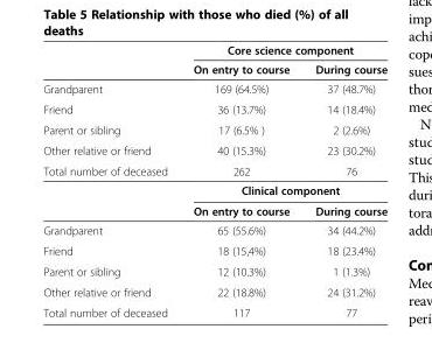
<table><thead><tr><td rowspan="2"></td><td colspan="2">Core science component</td></tr><tr><td>On entry to course</td><td>During course</td></tr></thead><tbody><tr><td>Grandparent</td><td>169 (64.5%)</td><td>37 (48.7%)</td></tr><tr><td>Friend</td><td>36 (13.7%)</td><td>14 (18.4%)</td></tr><tr><td>Parent or sibling</td><td>17 (6.5% )</td><td>2 (2.6%)</td></tr><tr><td>Other relative or friend</td><td>40 (15.3%)</td><td>23 (30.2%)</td></tr><tr><td rowspan="3">Total number of deceased</td><td>262</td><td>76</td></tr><tr><td colspan="2">Clinical component</td></tr><tr><td>On entry to course</td><td>During course</td></tr><tr><td>Grandparent</td><td>65 (55.6%)</td><td>34 (44.2%)</td></tr><tr><td>Friend</td><td>18 (15,4%)</td><td>18 (23.4%)</td></tr><tr><td>Parent or sibling</td><td>12 (10.3%)</td><td>1 (1.3%)</td></tr><tr><td>Other relative or friend</td><td>22 (18.8%)</td><td>24 (31.2%)</td></tr><tr><td>Total number of deceased</td><td>117</td><td>77</td></tr></tbody></table>